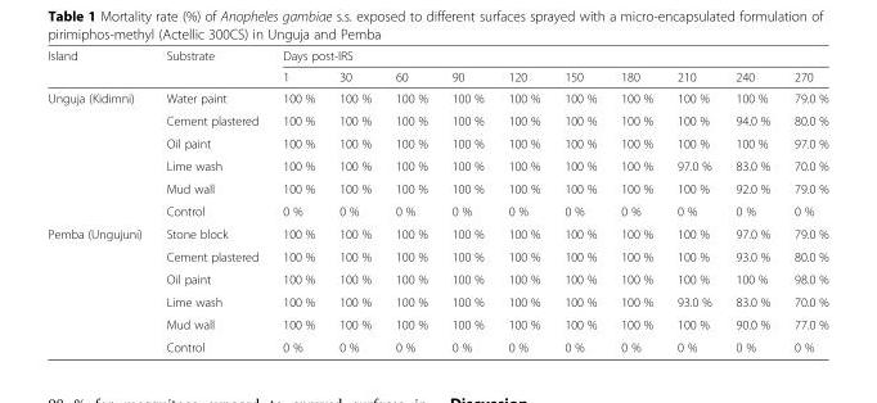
<table><thead><tr><td rowspan="2">Island</td><td rowspan="2">Substrate</td><td colspan="10">Days post-IRS</td></tr><tr><td>1</td><td>30</td><td>60</td><td>90</td><td>120</td><td>150</td><td>180</td><td>210</td><td>240</td><td>270</td></tr></thead><tbody><tr><td rowspan="6">Unguja (Kidimni)</td><td>Water paint</td><td>100 %</td><td>100 %</td><td>100 %</td><td>100 %</td><td>100 %</td><td>100 %</td><td>100 %</td><td>100 %</td><td>100 %</td><td>79.0 %</td></tr><tr><td>Cement plastered</td><td>100 %</td><td>100 %</td><td>100 %</td><td>100 %</td><td>100 %</td><td>100 %</td><td>100 %</td><td>100 %</td><td>94.0 %</td><td>80.0 %</td></tr><tr><td>Oil paint</td><td>100 %</td><td>100 %</td><td>100 %</td><td>100 %</td><td>100 %</td><td>100 %</td><td>100 %</td><td>100 %</td><td>100 %</td><td>97.0 %</td></tr><tr><td>Lime wash</td><td>100 %</td><td>100 %</td><td>100 %</td><td>100 %</td><td>100 %</td><td>100 %</td><td>100 %</td><td>97.0 %</td><td>83.0 %</td><td>70.0 %</td></tr><tr><td>Mud wall</td><td>100 %</td><td>100 %</td><td>100 %</td><td>100 %</td><td>100 %</td><td>100 %</td><td>100 %</td><td>100 %</td><td>92.0 %</td><td>79.0 %</td></tr><tr><td>Control</td><td>0 %</td><td>0 %</td><td>0 %</td><td>0 %</td><td>0 %</td><td>0 %</td><td>0 %</td><td>0 %</td><td>0 %</td><td>0 %</td></tr><tr><td rowspan="6">Pemba (Ungujuni)</td><td>Stone block</td><td>100 %</td><td>100 %</td><td>100 %</td><td>100 %</td><td>100 %</td><td>100 %</td><td>100 %</td><td>100 %</td><td>97.0 %</td><td>79.0 %</td></tr><tr><td>Cement plastered</td><td>100 %</td><td>100 %</td><td>100 %</td><td>100 %</td><td>100 %</td><td>100 %</td><td>100 %</td><td>100 %</td><td>93.0 %</td><td>80.0 %</td></tr><tr><td>Oil paint</td><td>100 %</td><td>100 %</td><td>100 %</td><td>100 %</td><td>100 %</td><td>100 %</td><td>100 %</td><td>100 %</td><td>100 %</td><td>98.0 %</td></tr><tr><td>Lime wash</td><td>100 %</td><td>100 %</td><td>100 %</td><td>100 %</td><td>100 %</td><td>100 %</td><td>100 %</td><td>93.0 %</td><td>83.0 %</td><td>70.0 %</td></tr><tr><td>Mud wall</td><td>100 %</td><td>100 %</td><td>100 %</td><td>100 %</td><td>100 %</td><td>100 %</td><td>100 %</td><td>100 %</td><td>90.0 %</td><td>77.0 %</td></tr><tr><td>Control</td><td>0 %</td><td>0 %</td><td>0 %</td><td>0 %</td><td>0 %</td><td>0 %</td><td>0 %</td><td>0 %</td><td>0 %</td><td>0 %</td></tr></tbody></table>